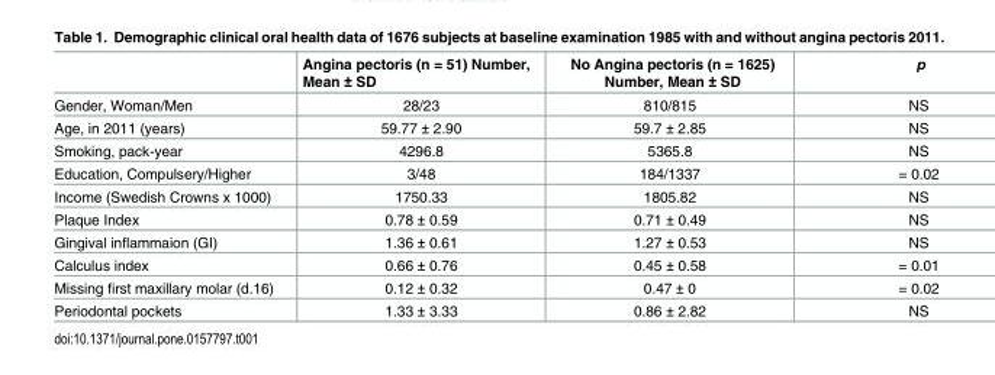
<table><thead><tr><td></td><td>Angina pectoris (n = 51) Number, Mean ± SD</td><td>No Angina pectoris (n = 1625) Number, Mean ± SD</td><td>p</td></tr></thead><tbody><tr><td>Gender, Woman/Men</td><td>28/23</td><td>810/815</td><td>NS</td></tr><tr><td>Age, in 2011 (years)</td><td>59.77 ± 2.90</td><td>59.7 ± 2.85</td><td>NS</td></tr><tr><td>Smoking, pack-year</td><td>4296.8</td><td>5365.8</td><td>NS</td></tr><tr><td>Education, Compulsery/Higher</td><td>3/48</td><td>184/1337</td><td>= 0.02</td></tr><tr><td>Income (Swedish Crowns x 1000)</td><td>1750.33</td><td>1805.82</td><td>NS</td></tr><tr><td>Plaque Index</td><td>0.78 ± 0.59</td><td>0.71 ± 0.49</td><td>NS</td></tr><tr><td>Gingival inflammaion (GI)</td><td>1.36 ± 0.61</td><td>1.27 ± 0.53</td><td>NS</td></tr><tr><td>Calculus index</td><td>0.66 ± 0.76</td><td>0.45 ± 0.58</td><td>= 0.01</td></tr><tr><td>Missing first maxillary molar (d.16)</td><td>0.12 ± 0.32</td><td>0.47 ± 0</td><td>= 0.02</td></tr><tr><td>Periodontal pockets</td><td>1.33 ± 3.33</td><td>0.86 ± 2.82</td><td>NS</td></tr></tbody></table>